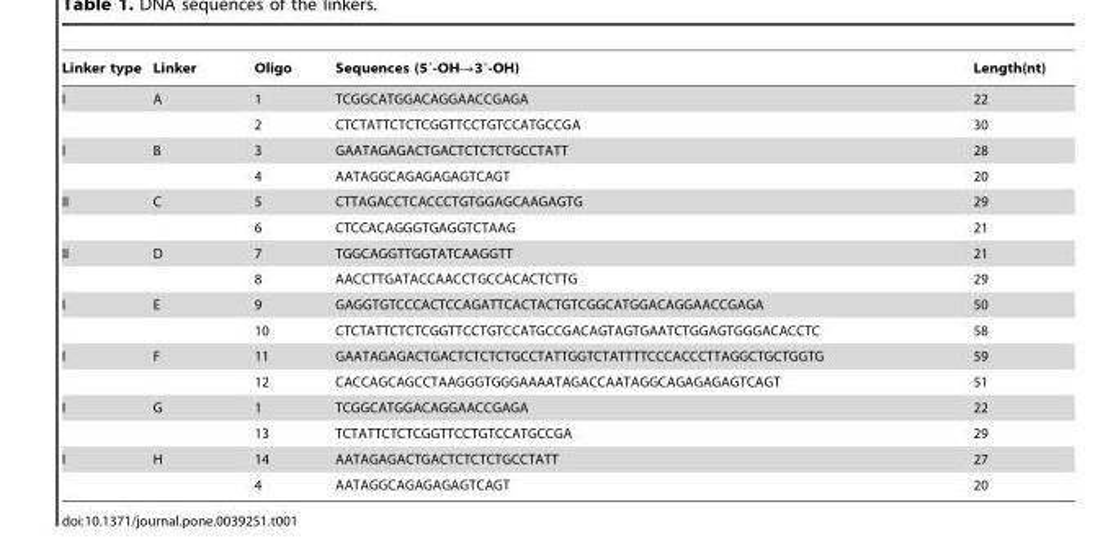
<table><thead><tr><td>Linker type</td><td>Linker</td><td>Oligo</td><td>Sequences (5′-OH→3′-OH)</td><td>Length(nt)</td></tr></thead><tbody><tr><td rowspan="2">I</td><td>A</td><td>1</td><td>TCGGCATGGACAGGAACCGAGA</td><td>22</td></tr><tr><td></td><td>2</td><td>CTCTATTCTCTCGGTTCCTGTCCATGCCGA</td><td>30</td></tr><tr><td rowspan="2">I</td><td>B</td><td>3</td><td>GAATAGAGACTGACTCTCTCTGCCTATT</td><td>28</td></tr><tr><td></td><td>4</td><td>AATAGGCAGAGAGAGTCAGT</td><td>20</td></tr><tr><td rowspan="2">II</td><td>C</td><td>5</td><td>CTTAGACCTCACCCTGTGGAGCAAGAGTG</td><td>29</td></tr><tr><td></td><td>6</td><td>CTCCACAGGGTGAGGTCTAAG</td><td>21</td></tr><tr><td rowspan="2">II</td><td>D</td><td>7</td><td>TGGCAGGTTGGTATCAAGGTT</td><td>21</td></tr><tr><td></td><td>8</td><td>AACCTTGATACCAACCTGCCACACTCTTG</td><td>29</td></tr><tr><td rowspan="2">I</td><td>E</td><td>9</td><td>GAGGTGTCCCACTCCAGATTCACTACTGTCGGCATGGACAGGAACCGAGA</td><td>50</td></tr><tr><td></td><td>10</td><td>CTCTATTCTCTCGGTTCCTGTCCATGCCGACAGTAGTGAATCTGGAGTGGGACACCTC</td><td>58</td></tr><tr><td rowspan="2">I</td><td>F</td><td>11</td><td>GAATAGAGACTGACTCTCTCTGCCTATTGGTCTATTTTCCCACCCTTAGGCTGCTGGTG</td><td>59</td></tr><tr><td></td><td>12</td><td>CACCAGCAGCCTAAGGGTGGGAAAATAGACCAATAGGCAGAGAGAGTCAGT</td><td>51</td></tr><tr><td rowspan="2">I</td><td>G</td><td>1</td><td>TCGGCATGGACAGGAACCGAGA</td><td>22</td></tr><tr><td></td><td>13</td><td>TCTATTCTCTCGGTTCCTGTCCATGCCGA</td><td>29</td></tr><tr><td rowspan="2">I</td><td>H</td><td>14</td><td>AATAGAGACTGACTCTCTCTGCCTATT</td><td>27</td></tr><tr><td></td><td>4</td><td>AATAGGCAGAGAGAGTCAGT</td><td>20</td></tr></tbody></table>